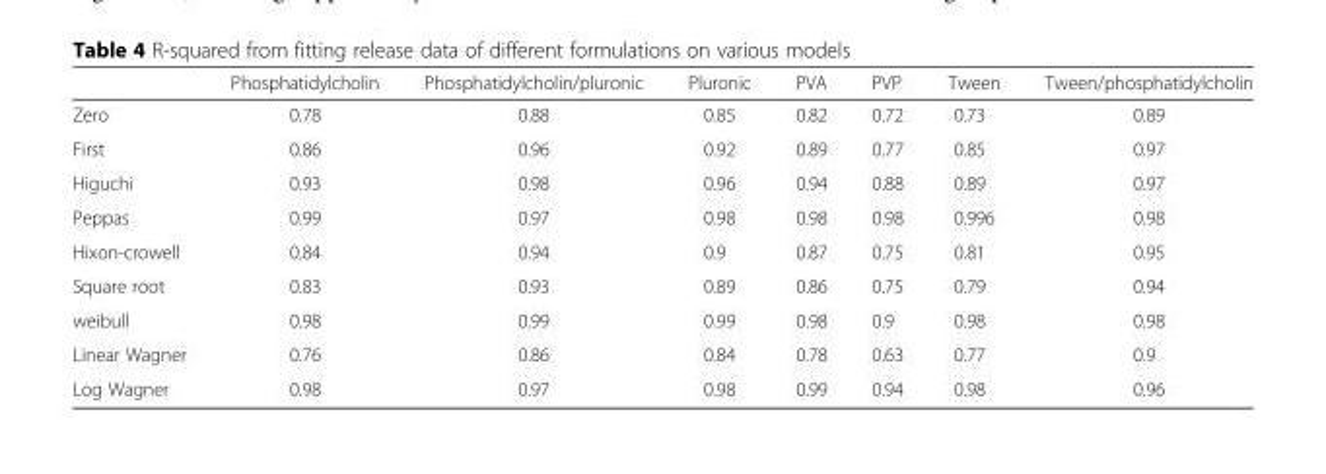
<table><thead><tr><td></td><td>Phosphatidylcholin</td><td>Phosphatidylcholin/pluronic</td><td>Pluronic</td><td>PVA</td><td>PVP</td><td>Tween</td><td>Tween/phosphatidylcholin</td></tr></thead><tbody><tr><td>Zero</td><td>0.78</td><td>0.88</td><td>0.85</td><td>0.82</td><td>0.72</td><td>0.73</td><td>0.89</td></tr><tr><td>First</td><td>0.86</td><td>0.96</td><td>0.92</td><td>0.89</td><td>0.77</td><td>0.85</td><td>0.97</td></tr><tr><td>Higuchi</td><td>0.93</td><td>0.98</td><td>0.96</td><td>0.94</td><td>0.88</td><td>0.89</td><td>0.97</td></tr><tr><td>Peppas</td><td>0.99</td><td>0.97</td><td>0.98</td><td>0.98</td><td>0.98</td><td>0.996</td><td>0.98</td></tr><tr><td>Hixon-crowell</td><td>0.84</td><td>0.94</td><td>0.9</td><td>0.87</td><td>0.75</td><td>0.81</td><td>0.95</td></tr><tr><td>Square root</td><td>0.83</td><td>0.93</td><td>0.89</td><td>0.86</td><td>0.75</td><td>0.79</td><td>0.94</td></tr><tr><td>weibull</td><td>0.98</td><td>0.99</td><td>0.99</td><td>0.98</td><td>0.9</td><td>0.98</td><td>0.98</td></tr><tr><td>Linear Wagner</td><td>0.76</td><td>0.86</td><td>0.84</td><td>0.78</td><td>0.63</td><td>0.77</td><td>0.9</td></tr><tr><td>Log Wagner</td><td>0.98</td><td>0.97</td><td>0.98</td><td>0.99</td><td>0.94</td><td>0.98</td><td>0.96</td></tr></tbody></table>